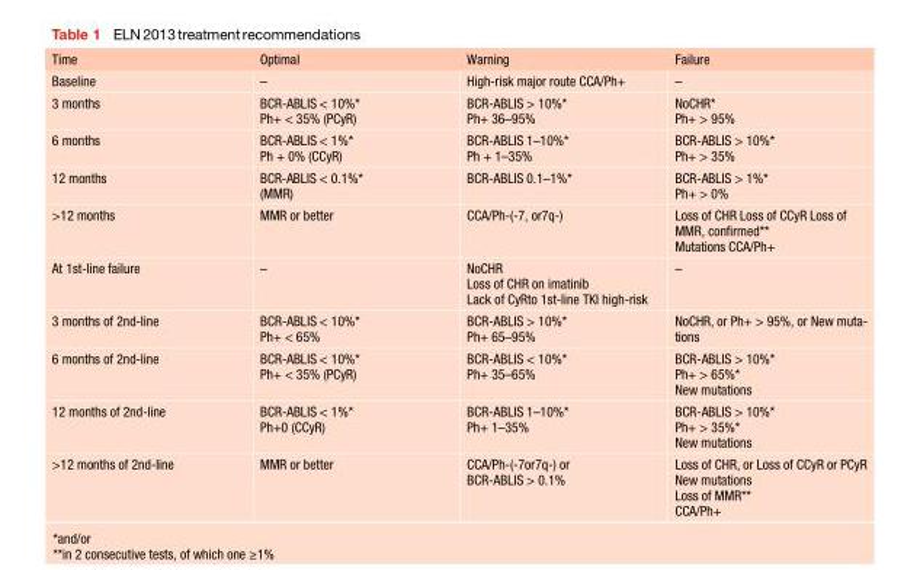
<table><thead><tr><td>Time</td><td>Optimal</td><td>Warning</td><td>Failure</td></tr></thead><tbody><tr><td>Baseline</td><td>–</td><td>High-risk major route CCA/Ph+</td><td>–</td></tr><tr><td>3 months</td><td>BCR-ABLIS &lt; 10%* Ph+ &lt; 35% (PCyR)</td><td>BCR-ABLIS &gt; 10%* Ph+ 36–95%</td><td>NoCHR* Ph+ &gt; 95%</td></tr><tr><td>6 months</td><td>BCR-ABLIS &lt; 1%* Ph + 0% (CCyR)</td><td>BCR-ABLIS 1–10%* Ph + 1–35%</td><td>BCR-ABLIS &gt; 10%* Ph+ &gt; 35%</td></tr><tr><td>12 months</td><td>BCR-ABLIS &lt; 0.1%* (MMR)</td><td>BCR-ABLIS 0.1–1%*</td><td>BCR-ABLIS &gt; 1%* Ph+ &gt; 0%</td></tr><tr><td>&gt;12 months</td><td>MMR or better</td><td>CCA/Ph-(-7, or7q-)</td><td>Loss of CHR Loss of CCyR Loss of MMR, confirmed** Mutations CCA/Ph+</td></tr><tr><td>At 1st-line failure</td><td>–</td><td>NoCHR Loss of CHR on imatinib Lack of CyRto 1st-line TKI high-risk</td><td>–</td></tr><tr><td>3 months of 2nd-line</td><td>BCR-ABLIS &lt; 10%* Ph+ &lt; 65%</td><td>BCR-ABLIS &gt; 10%* Ph+ 65–95%</td><td>NoCHR, or Ph+ &gt; 95%, or New muta- tions</td></tr><tr><td>6 months of 2nd-line</td><td>BCR-ABLIS &lt; 10%* Ph+ &lt; 35% (PCyR)</td><td>BCR-ABLIS &lt; 10%* Ph+ 35–65%</td><td>BCR-ABLIS &gt; 10%* Ph+ &gt; 65%* New mutations</td></tr><tr><td>12 months of 2nd-line</td><td>BCR-ABLIS &lt; 1%* Ph+0 (CCyR)</td><td>BCR-ABLIS 1–10%* Ph+ 1–35%</td><td>BCR-ABLIS &gt; 10%* Ph+ &gt; 35%* New mutations</td></tr><tr><td>&gt;12 months of 2nd-line</td><td>MMR or better</td><td>CCA/Ph-(-7or7q-) or BCR-ABLIS &gt; 0.1%</td><td>Loss of CHR, or Loss of CCyR or PCyR New mutations Loss of MMR** CCA/Ph+</td></tr></tbody></table>